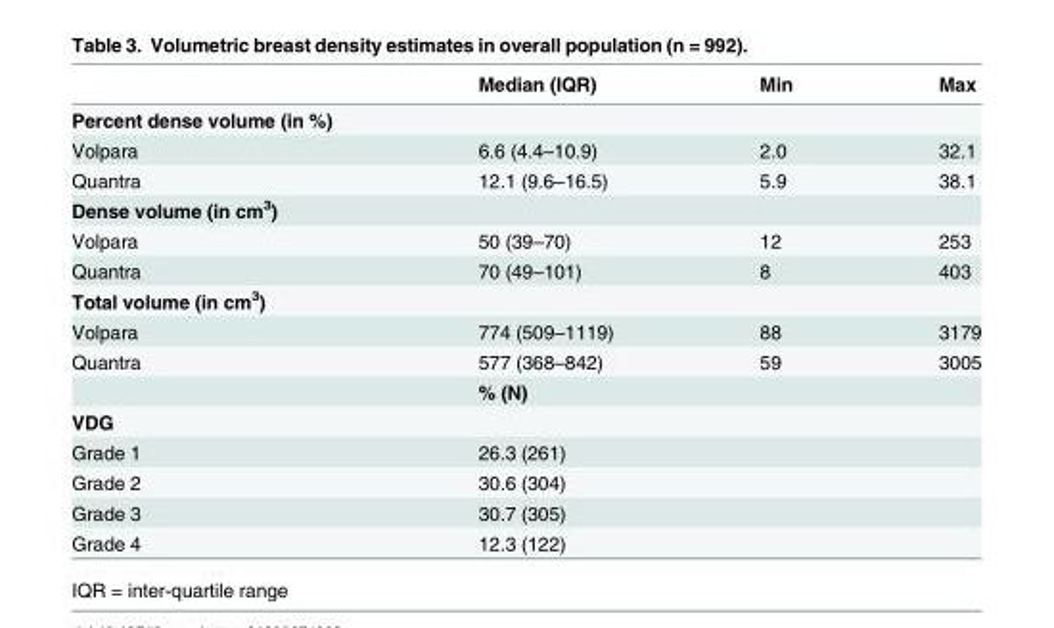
<table><thead><tr><td></td><td>Median (IQR)</td><td>Min</td><td>Max</td></tr></thead><tbody><tr><td colspan="4">Percent dense volume (in %)</td></tr><tr><td>Volpara</td><td>6.6 (4.4–10.9)</td><td>2.0</td><td>32.1</td></tr><tr><td>Quantra</td><td>12.1 (9.6–16.5)</td><td>5.9</td><td>38.1</td></tr><tr><td colspan="4">Dense volume (in cm<sup>3</sup>)</td></tr><tr><td>Volpara</td><td>50 (39–70)</td><td>12</td><td>253</td></tr><tr><td>Quantra</td><td>70 (49–101)</td><td>8</td><td>403</td></tr><tr><td colspan="4">Total volume (in cm<sup>3</sup>)</td></tr><tr><td>Volpara</td><td>774 (509–1119)</td><td>88</td><td>3179</td></tr><tr><td rowspan="2">Quantra</td><td>577 (368–842)</td><td>59</td><td>3005</td></tr><tr><td>% (N)</td><td></td><td></td></tr><tr><td colspan="4">VDG</td></tr><tr><td>Grade 1</td><td>26.3 (261)</td><td></td><td></td></tr><tr><td>Grade 2</td><td>30.6 (304)</td><td></td><td></td></tr><tr><td>Grade 3</td><td>30.7 (305)</td><td></td><td></td></tr><tr><td>Grade 4</td><td>12.3 (122)</td><td></td><td></td></tr></tbody></table>